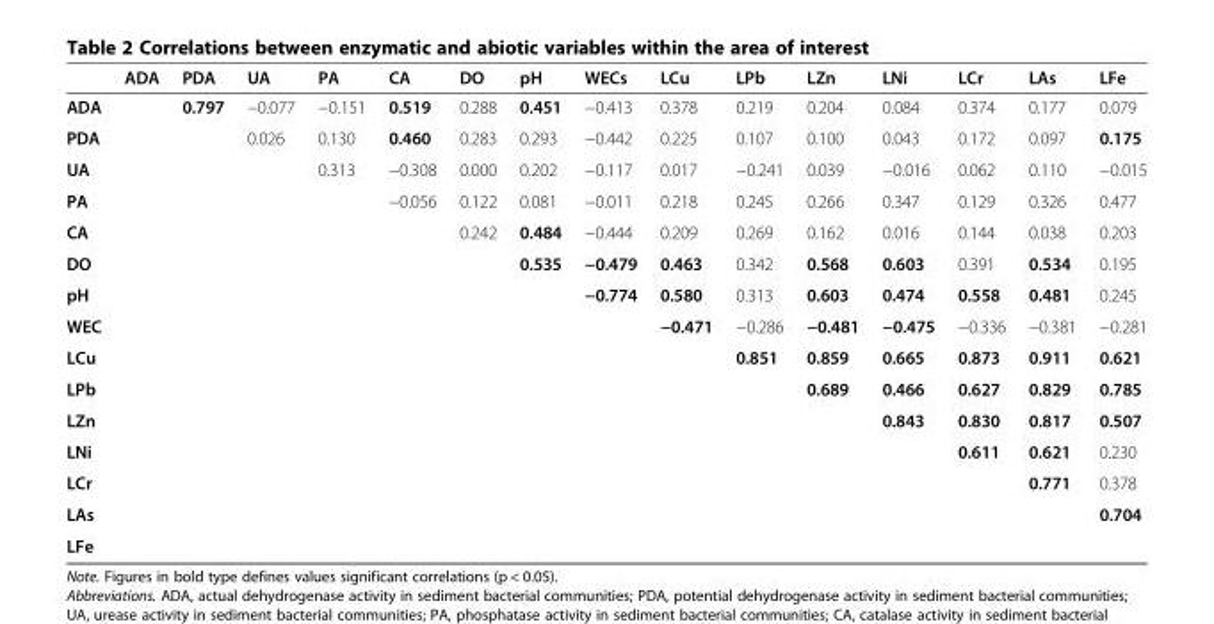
<table><thead><tr><td></td><td>ADA</td><td>PDA</td><td>UA</td><td>PA</td><td>CA</td><td>DO</td><td>pH</td><td>WECs</td><td>LCu</td><td>LPb</td><td>LZn</td><td>LNi</td><td>LCr</td><td>LAs</td><td>LFe</td></tr></thead><tbody><tr><td>ADA</td><td></td><td>0.797</td><td>−0.077</td><td>−0.151</td><td>0.519</td><td>0.288</td><td>0.451</td><td>−0.413</td><td>0.378</td><td>0.219</td><td>0.204</td><td>0.084</td><td>0.374</td><td>0.177</td><td>0.079</td></tr><tr><td>PDA</td><td></td><td></td><td>0.026</td><td>0.130</td><td>0.460</td><td>0.283</td><td>0.293</td><td>−0.442</td><td>0.225</td><td>0.107</td><td>0.100</td><td>0.043</td><td>0.172</td><td>0.097</td><td>0.175</td></tr><tr><td>UA</td><td></td><td></td><td></td><td>0.313</td><td>−0.308</td><td>0.000</td><td>0.202</td><td>−0.117</td><td>0.017</td><td>−0.241</td><td>0.039</td><td>−0.016</td><td>0.062</td><td>0.110</td><td>−0.015</td></tr><tr><td>PA</td><td></td><td></td><td></td><td></td><td>−0.056</td><td>0.122</td><td>0.081</td><td>−0.011</td><td>0.218</td><td>0.245</td><td>0.266</td><td>0.347</td><td>0.129</td><td>0.326</td><td>0.477</td></tr><tr><td>CA</td><td></td><td></td><td></td><td></td><td></td><td>0.242</td><td>0.484</td><td>−0.444</td><td>0.209</td><td>0.269</td><td>0.162</td><td>0.016</td><td>0.144</td><td>0.038</td><td>0.203</td></tr><tr><td>DO</td><td></td><td></td><td></td><td></td><td></td><td></td><td>0.535</td><td>−0.479</td><td>0.463</td><td>0.342</td><td>0.568</td><td>0.603</td><td>0.391</td><td>0.534</td><td>0.195</td></tr><tr><td>pH</td><td></td><td></td><td></td><td></td><td></td><td></td><td></td><td>−0.774</td><td>0.580</td><td>0.313</td><td>0.603</td><td>0.474</td><td>0.558</td><td>0.481</td><td>0.245</td></tr><tr><td>WEC</td><td></td><td></td><td></td><td></td><td></td><td></td><td></td><td></td><td>−0.471</td><td>−0.286</td><td>−0.481</td><td>−0.475</td><td>−0.336</td><td>−0.381</td><td>−0.281</td></tr><tr><td>LCu</td><td></td><td></td><td></td><td></td><td></td><td></td><td></td><td></td><td></td><td>0.851</td><td>0.859</td><td>0.665</td><td>0.873</td><td>0.911</td><td>0.621</td></tr><tr><td>LPb</td><td></td><td></td><td></td><td></td><td></td><td></td><td></td><td></td><td></td><td></td><td>0.689</td><td>0.466</td><td>0.627</td><td>0.829</td><td>0.785</td></tr><tr><td>LZn</td><td></td><td></td><td></td><td></td><td></td><td></td><td></td><td></td><td></td><td></td><td></td><td>0.843</td><td>0.830</td><td>0.817</td><td>0.507</td></tr><tr><td>LNi</td><td></td><td></td><td></td><td></td><td></td><td></td><td></td><td></td><td></td><td></td><td></td><td></td><td>0.611</td><td>0.621</td><td>0.230</td></tr><tr><td>LCr</td><td></td><td></td><td></td><td></td><td></td><td></td><td></td><td></td><td></td><td></td><td></td><td></td><td></td><td>0.771</td><td>0.378</td></tr><tr><td>LAs</td><td></td><td></td><td></td><td></td><td></td><td></td><td></td><td></td><td></td><td></td><td></td><td></td><td></td><td></td><td>0.704</td></tr><tr><td>LFe</td><td></td><td></td><td></td><td></td><td></td><td></td><td></td><td></td><td></td><td></td><td></td><td></td><td></td><td></td><td></td></tr></tbody></table>